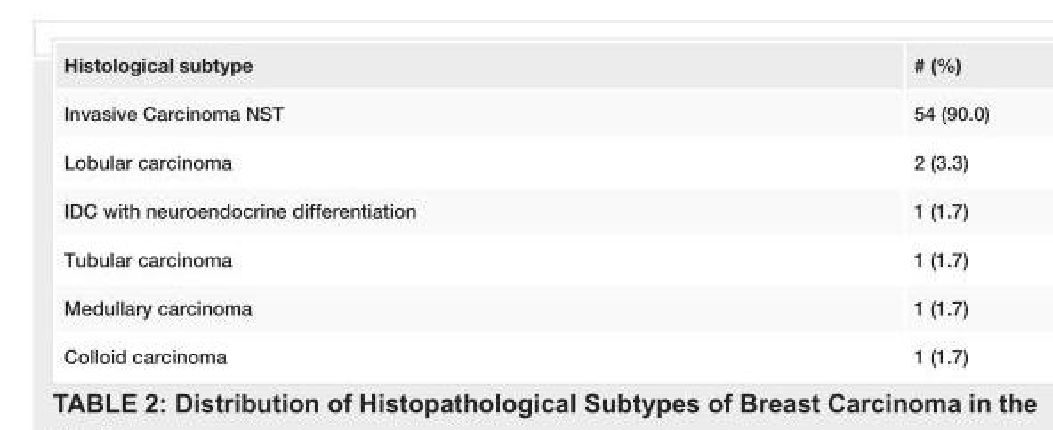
<table><tbody><tr><td>Histological subtype</td><td># (%)</td></tr><tr><td>Invasive Carcinoma NST</td><td>54 (90.0)</td></tr><tr><td>Lobular carcinoma</td><td>2 (3.3)</td></tr><tr><td>IDC with neuroendocrine differentiation</td><td>1 (1.7)</td></tr><tr><td>Tubular carcinoma</td><td>1 (1.7)</td></tr><tr><td>Medullary carcinoma</td><td>1 (1.7)</td></tr><tr><td>Colloid carcinoma</td><td>1 (1.7)</td></tr></tbody></table>